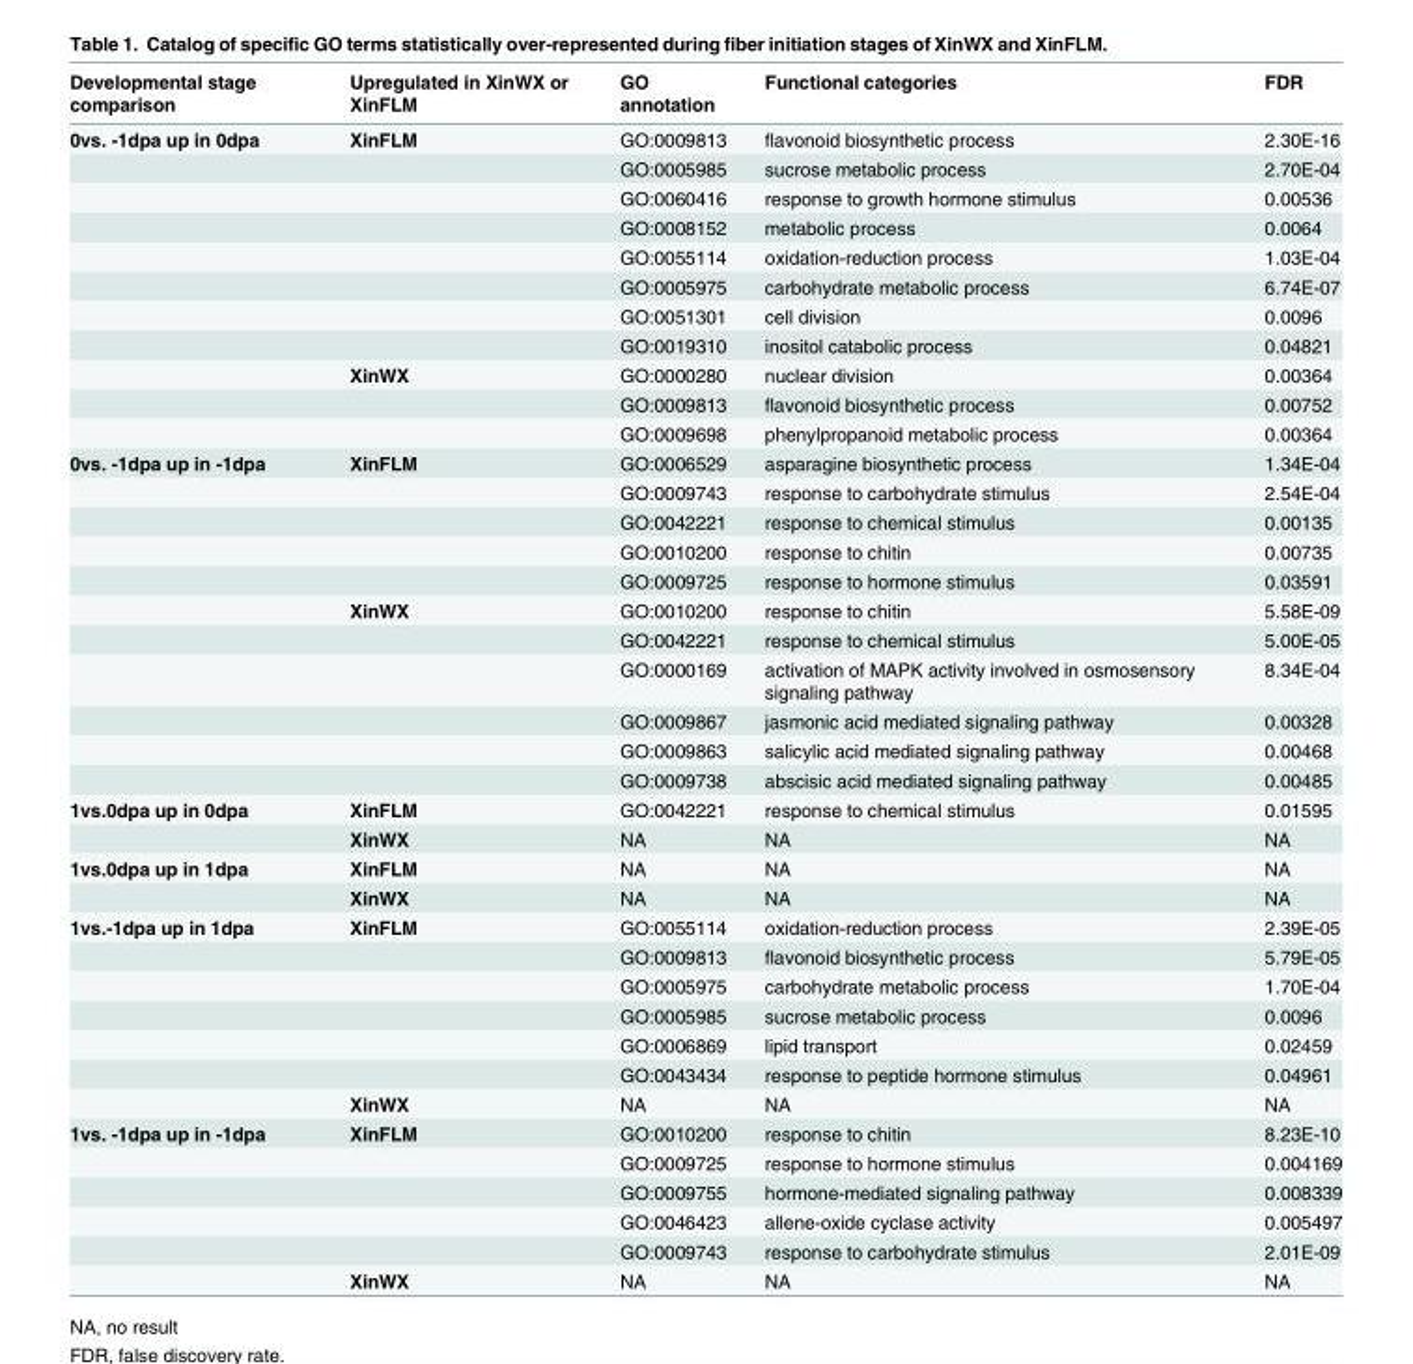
<table><thead><tr><td>Developmental stage comparison</td><td>Upregulated in XinWX or XinFLM</td><td>GO annotation</td><td>Functional categories</td><td>FDR</td></tr></thead><tbody><tr><td rowspan="11">0vs. -1dpa up in 0dpa</td><td>XinFLM</td><td>GO:0009813</td><td>flavonoid biosynthetic process</td><td>2.30E-16</td></tr><tr><td></td><td>GO:0005985</td><td>sucrose metabolic process</td><td>2.70E-04</td></tr><tr><td></td><td>GO:0060416</td><td>response to growth hormone stimulus</td><td>0.00536</td></tr><tr><td></td><td>GO:0008152</td><td>metabolic process</td><td>0.0064</td></tr><tr><td></td><td>GO:0055114</td><td>oxidation-reduction process</td><td>1.03E-04</td></tr><tr><td></td><td>GO:0005975</td><td>carbohydrate metabolic process</td><td>6.74E-07</td></tr><tr><td></td><td>GO:0051301</td><td>cell division</td><td>0.0096</td></tr><tr><td></td><td>GO:0019310</td><td>inositol catabolic process</td><td>0.04821</td></tr><tr><td>XinWX</td><td>GO:0000280</td><td>nuclear division</td><td>0.00364</td></tr><tr><td></td><td>GO:0009813</td><td>flavonoid biosynthetic process</td><td>0.00752</td></tr><tr><td></td><td>GO:0009698</td><td>phenylpropanoid metabolic process</td><td>0.00364</td></tr><tr><td rowspan="11">0vs. -1dpa up in -1dpa</td><td>XinFLM</td><td>GO:0006529</td><td>asparagine biosynthetic process</td><td>1.34E-04</td></tr><tr><td></td><td>GO:0009743</td><td>response to carbohydrate stimulus</td><td>2.54E-04</td></tr><tr><td></td><td>GO:0042221</td><td>response to chemical stimulus</td><td>0.00135</td></tr><tr><td></td><td>GO:0010200</td><td>response to chitin</td><td>0.00735</td></tr><tr><td></td><td>GO:0009725</td><td>response to hormone stimulus</td><td>0.03591</td></tr><tr><td>XinWX</td><td>GO:0010200</td><td>response to chitin</td><td>5.58E-09</td></tr><tr><td></td><td>GO:0042221</td><td>response to chemical stimulus</td><td>5.00E-05</td></tr><tr><td></td><td>GO:0000169</td><td>activation of MAPK activity involved in osmosensory signaling pathway</td><td>8.34E-04</td></tr><tr><td></td><td>GO:0009867</td><td>jasmonic acid mediated signaling pathway</td><td>0.00328</td></tr><tr><td></td><td>GO:0009863</td><td>salicylic acid mediated signaling pathway</td><td>0.00468</td></tr><tr><td></td><td>GO:0009738</td><td>abscisic acid mediated signaling pathway</td><td>0.00485</td></tr><tr><td rowspan="2">1vs.0dpa up in 0dpa</td><td>XinFLM</td><td>GO:0042221</td><td>response to chemical stimulus</td><td>0.01595</td></tr><tr><td>XinWX</td><td>NA</td><td>NA</td><td>NA</td></tr><tr><td rowspan="2">1vs.0dpa up in 1dpa</td><td>XinFLM</td><td>NA</td><td>NA</td><td>NA</td></tr><tr><td>XinWX</td><td>NA</td><td>NA</td><td>NA</td></tr><tr><td rowspan="7">1vs.-1dpa up in 1dpa</td><td>XinFLM</td><td>GO:0055114</td><td>oxidation-reduction process</td><td>2.39E-05</td></tr><tr><td></td><td>GO:0009813</td><td>flavonoid biosynthetic process</td><td>5.79E-05</td></tr><tr><td></td><td>GO:0005975</td><td>carbohydrate metabolic process</td><td>1.70E-04</td></tr><tr><td></td><td>GO:0005985</td><td>sucrose metabolic process</td><td>0.0096</td></tr><tr><td></td><td>GO:0006869</td><td>lipid transport</td><td>0.02459</td></tr><tr><td></td><td>GO:0043434</td><td>response to peptide hormone stimulus</td><td>0.04961</td></tr><tr><td>XinWX</td><td>NA</td><td>NA</td><td>NA</td></tr><tr><td rowspan="6">1vs. -1dpa up in -1dpa</td><td>XinFLM</td><td>GO:0010200</td><td>response to chitin</td><td>8.23E-10</td></tr><tr><td></td><td>GO:0009725</td><td>response to hormone stimulus</td><td>0.004169</td></tr><tr><td></td><td>GO:0009755</td><td>hormone-mediated signaling pathway</td><td>0.008339</td></tr><tr><td></td><td>GO:0046423</td><td>allene-oxide cyclase activity</td><td>0.005497</td></tr><tr><td></td><td>GO:0009743</td><td>response to carbohydrate stimulus</td><td>2.01E-09</td></tr><tr><td>XinWX</td><td>NA</td><td>NA</td><td>NA</td></tr></tbody></table>